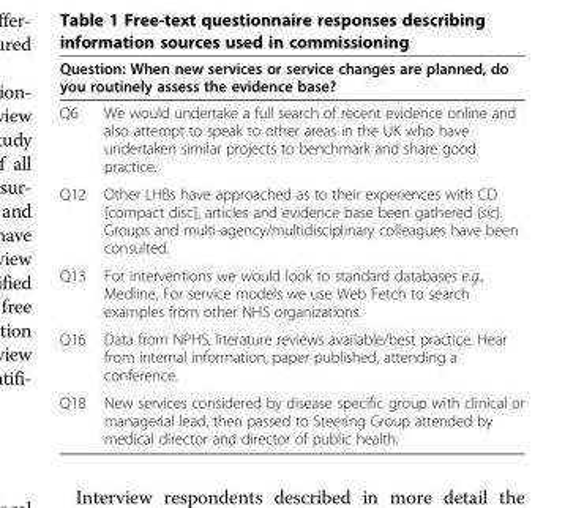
<table><thead><tr><td colspan="2">Question: When new services or service changes are planned, do you routinely assess the evidence base?</td></tr><tr><td>Q6</td><td>We would undertake a full search of recent evidence online and also attempt to speak to other areas in the UK who have undertaken similar projects to benchmark and share good practice.</td></tr></thead><tbody><tr><td>Q12</td><td>Other LHBs have approached as to their experiences with CD [compact disc], articles and evidence base been gathered (sic). Groups and multi-agency/multidisciplinary colleagues have been consulted.</td></tr><tr><td>Q13</td><td>For interventions we would look to standard databases e.g., Medline. For service models we use Web Fetch to search examples from other NHS organizations.</td></tr><tr><td>Q16</td><td>Data from NPHS, literature reviews available/best practice. Hear from internal information, paper published, attending a conference.</td></tr><tr><td>Q18</td><td>New services considered by disease specific group with clinical or managerial lead, then passed to Steering Group attended by medical director and director of public health.</td></tr></tbody></table>